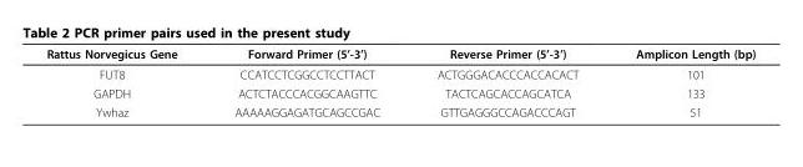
<table><thead><tr><td>Rattus Norvegicus Gene</td><td>Forward Primer (5’-3’)</td><td>Reverse Primer (5’-3’)</td><td>Amplicon Length (bp)</td></tr></thead><tbody><tr><td>FUT8</td><td>CCATCCTCGGCCTCCTTACT</td><td>ACTGGGACACCCACCACACT</td><td>101</td></tr><tr><td>GAPDH</td><td>ACTCTACCCACGGCAAGTTC</td><td>TACTCAGCACCAGCATCA</td><td>133</td></tr><tr><td>Ywhaz</td><td>AAAAAGGAGATGCAGCCGAC</td><td>GTTGAGGGCCAGACCCAGT</td><td>51</td></tr></tbody></table>